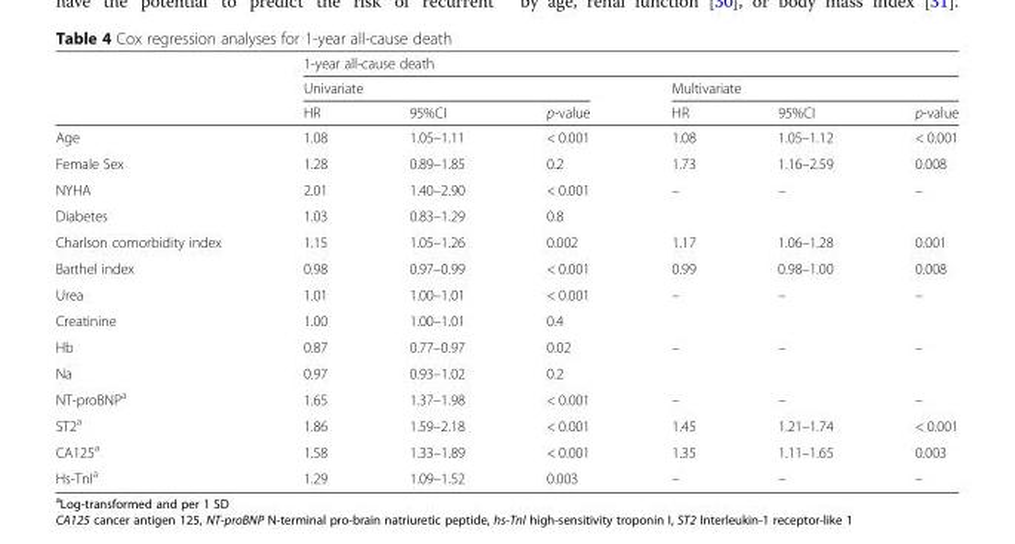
<table><thead><tr><td rowspan="3"></td><td colspan="6">1-year all-cause death</td></tr><tr><td colspan="3">Univariate</td><td colspan="3">Multivariate</td></tr><tr><td>HR</td><td>95%CI</td><td>p-value</td><td>HR</td><td>95%CI</td><td>p-value</td></tr></thead><tbody><tr><td>Age</td><td>1.08</td><td>1.05–1.11</td><td>&lt; 0.001</td><td>1.08</td><td>1.05–1.12</td><td>&lt; 0.001</td></tr><tr><td>Female Sex</td><td>1.28</td><td>0.89–1.85</td><td>0.2</td><td>1.73</td><td>1.16–2.59</td><td>0.008</td></tr><tr><td>NYHA</td><td>2.01</td><td>1.40–2.90</td><td>&lt; 0.001</td><td>–</td><td>–</td><td>–</td></tr><tr><td>Diabetes</td><td>1.03</td><td>0.83–1.29</td><td>0.8</td><td></td><td></td><td></td></tr><tr><td>Charlson comorbidity index</td><td>1.15</td><td>1.05–1.26</td><td>0.002</td><td>1.17</td><td>1.06–1.28</td><td>0.001</td></tr><tr><td>Barthel index</td><td>0.98</td><td>0.97–0.99</td><td>&lt; 0.001</td><td>0.99</td><td>0.98–1.00</td><td>0.008</td></tr><tr><td>Urea</td><td>1.01</td><td>1.00–1.01</td><td>&lt; 0.001</td><td>–</td><td>–</td><td>–</td></tr><tr><td>Creatinine</td><td>1.00</td><td>1.00–1.01</td><td>0.4</td><td></td><td></td><td></td></tr><tr><td>Hb</td><td>0.87</td><td>0.77–0.97</td><td>0.02</td><td>–</td><td>–</td><td>–</td></tr><tr><td>Na</td><td>0.97</td><td>0.93–1.02</td><td>0.2</td><td></td><td></td><td></td></tr><tr><td>NT-proBNP<sup>a</sup></td><td>1.65</td><td>1.37–1.98</td><td>&lt; 0.001</td><td>–</td><td>–</td><td>–</td></tr><tr><td>ST2<sup>a</sup></td><td>1.86</td><td>1.59–2.18</td><td>&lt; 0.001</td><td>1.45</td><td>1.21–1.74</td><td>&lt; 0.001</td></tr><tr><td>CA125<sup>a</sup></td><td>1.58</td><td>1.33–1.89</td><td>&lt; 0.001</td><td>1.35</td><td>1.11–1.65</td><td>0.003</td></tr><tr><td>Hs-TnI<sup>a</sup></td><td>1.29</td><td>1.09–1.52</td><td>0.003</td><td>–</td><td>–</td><td>–</td></tr></tbody></table>